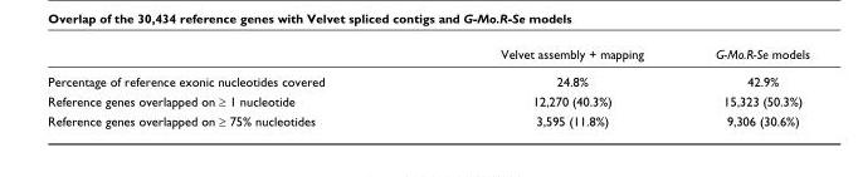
<table><thead><tr><td></td><td>Velvet assembly + mapping</td><td>G-Mo.R-Se models</td></tr></thead><tbody><tr><td>Percentage of reference exonic nucleotides covered</td><td>24.8%</td><td>42.9%</td></tr><tr><td>Reference genes overlapped on ≥ 1 nucleotide</td><td>12,270 (40.3%)</td><td>15,323 (50.3%)</td></tr><tr><td>Reference genes overlapped on ≥ 75% nucleotides</td><td>3,595 (11.8%)</td><td>9,306 (30.6%)</td></tr></tbody></table>